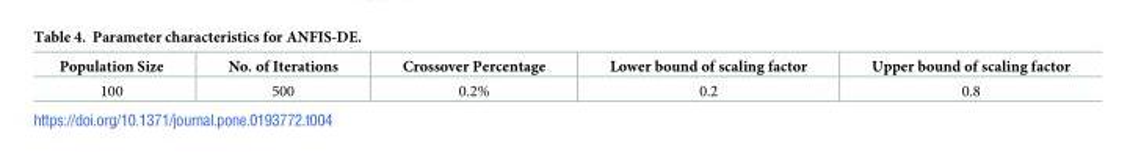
<table><thead><tr><td>Population Size</td><td>No. of Iterations</td><td>Crossover Percentage</td><td>Lower bound of scaling factor</td><td>Upper bound of scaling factor</td></tr></thead><tbody><tr><td>100</td><td>500</td><td>0.2%</td><td>0.2</td><td>0.8</td></tr></tbody></table>